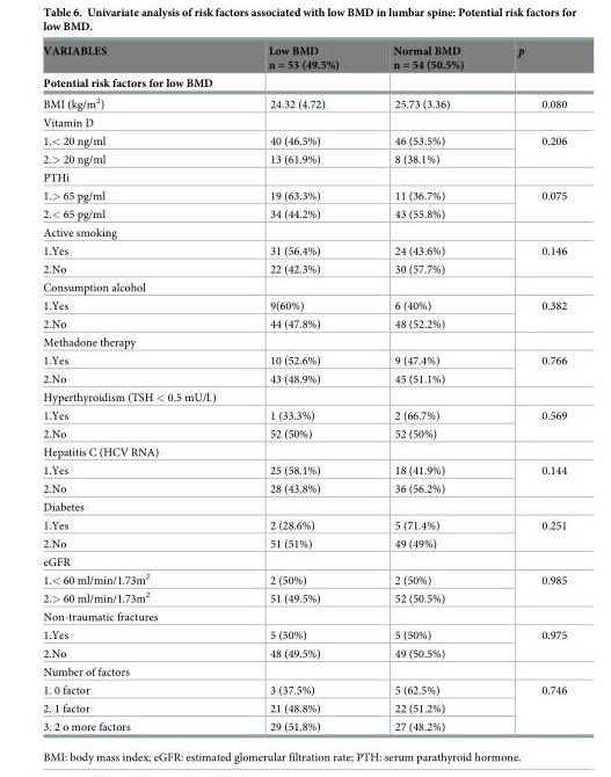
<table><thead><tr><td rowspan="2">VARIABLES Potential risk factors for low BMD</td><td rowspan="2">Low BMD n = 53 (49.5%)</td><td rowspan="2">Normal BMD n = 54 (50.5%)</td><td rowspan="2">p</td></tr><tr></tr></thead><tbody><tr><td>BMI (kg/m<sup>2</sup>)</td><td>24.32 (4.72)</td><td>25.73 (3.36)</td><td>0.080</td></tr><tr><td colspan="4">Vitamin D</td></tr><tr><td>1.&lt; 20 ng/ml</td><td>40 (46.5%)</td><td>46 (53.5%)</td><td rowspan="2">0.206</td></tr><tr><td>2.&gt; 20 ng/ml</td><td>13 (61.9%)</td><td>8 (38.1%)</td></tr><tr><td colspan="4">PTHi</td></tr><tr><td>1.&gt; 65 pg/ml</td><td>19 (63.3%)</td><td>11 (36.7%)</td><td rowspan="2">0.075</td></tr><tr><td>2.&lt; 65 pg/ml</td><td>34 (44.2%)</td><td>43 (55.8%)</td></tr><tr><td colspan="4">Active smoking</td></tr><tr><td>1.Yes</td><td>31 (56.4%)</td><td>24 (43.6%)</td><td rowspan="2">0.146</td></tr><tr><td>2.No</td><td>22 (42.3%)</td><td>30 (57.7%)</td></tr><tr><td colspan="4">Consumption alcohol</td></tr><tr><td>1.Yes</td><td>9(60%)</td><td>6 (40%)</td><td rowspan="2">0.382</td></tr><tr><td>2.No</td><td>44 (47.8%)</td><td>48 (52.2%)</td></tr><tr><td colspan="4">Methadone therapy</td></tr><tr><td>1.Yes</td><td>10 (52.6%)</td><td>9 (47.4%)</td><td rowspan="2">0.766</td></tr><tr><td>2.No</td><td>43 (48.9%)</td><td>45 (51.1%)</td></tr><tr><td colspan="4">Hyperthyroidism (TSH &lt; 0.5 mU/l.)</td></tr><tr><td>1.Yes</td><td>1 (33.3%)</td><td>2 (66.7%)</td><td rowspan="2">0.569</td></tr><tr><td>2.No</td><td>52 (50%)</td><td>52 (50%)</td></tr><tr><td colspan="4">Hepatitis C (HCV RNA)</td></tr><tr><td>1.Yes</td><td>25 (58.1%)</td><td>18 (41.9%)</td><td rowspan="2">0.144</td></tr><tr><td>2.No</td><td>28 (43.8%)</td><td>36 (56.2%)</td></tr><tr><td colspan="4">Diabetes</td></tr><tr><td>1.Yes</td><td>2 (28.6%)</td><td>5 (71.4%)</td><td rowspan="2">0.251</td></tr><tr><td>2.No</td><td>51 (51%)</td><td>49 (49%)</td></tr><tr><td colspan="4">eGFR</td></tr><tr><td>1.&lt; 60 ml/min/1.73m<sup>2</sup></td><td>2 (50%)</td><td>2 (50%)</td><td rowspan="2">0.985</td></tr><tr><td>2.&gt; 60 ml/min/1.73m<sup>2</sup></td><td>51 (49.5%)</td><td>52 (50.5%)</td></tr><tr><td colspan="4">Non-traumatic fractures</td></tr><tr><td>1.Yes</td><td>5 (50%)</td><td>5 (50%)</td><td rowspan="2">0.975</td></tr><tr><td>2.No</td><td>48 (49.5%)</td><td>49 (50.5%)</td></tr><tr><td colspan="4">Number of factors</td></tr><tr><td>1. 0 factor</td><td>3 (37.5%)</td><td>5 (62.5%)</td><td rowspan="3">0.746</td></tr><tr><td>2. 1 factor</td><td>21 (48.8%)</td><td>22 (51.2%)</td></tr><tr><td>3. 2 o more factors</td><td>29 (51.8%)</td><td>27 (48.2%)</td></tr></tbody></table>